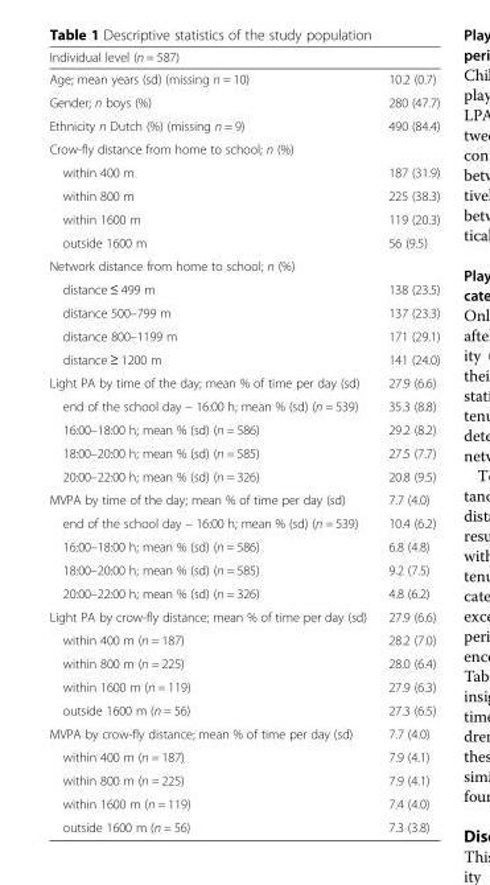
<table><thead><tr><td>Individual level (n = 587)</td><td></td></tr></thead><tbody><tr><td>Age; mean years (sd) (missing n = 10)</td><td>10.2 (0.7)</td></tr><tr><td>Gender; n boys (%)</td><td>280 (47.7)</td></tr><tr><td>Ethnicity n Dutch (%) (missing n = 9)</td><td>490 (84.4)</td></tr><tr><td colspan="2">Crow-fly distance from home to school; n (%)</td></tr><tr><td>within 400 m</td><td>187 (31.9)</td></tr><tr><td>within 800 m</td><td>225 (38.3)</td></tr><tr><td>within 1600 m</td><td>119 (20.3)</td></tr><tr><td>outside 1600 m</td><td>56 (9.5)</td></tr><tr><td colspan="2">Network distance from home to school; n (%)</td></tr><tr><td>distance ≤ 499 m</td><td>138 (23.5)</td></tr><tr><td>distance 500–799 m</td><td>137 (23.3)</td></tr><tr><td>distance 800–1199 m</td><td>171 (29.1)</td></tr><tr><td>distance ≥ 1200 m</td><td>141 (24.0)</td></tr><tr><td>Light PA by time of the day; mean % of time per day (sd)</td><td>27.9 (6.6)</td></tr><tr><td>end of the school day – 16:00 h; mean % (sd) (n = 539)</td><td>35.3 (8.8)</td></tr><tr><td>16:00–18:00 h; mean % (sd) (n = 586)</td><td>29.2 (8.2)</td></tr><tr><td>18:00–20:00 h; mean % (sd) (n = 585)</td><td>27.5 (7.7)</td></tr><tr><td>20:00–22:00 h; mean % (sd) (n = 326)</td><td>20.8 (9.5)</td></tr><tr><td>MVPA by time of the day; mean % of time per day (sd)</td><td>7.7 (4.0)</td></tr><tr><td>end of the school day – 16:00 h; mean % (sd) (n = 539)</td><td>10.4 (6.2)</td></tr><tr><td>16:00–18:00 h; mean % (sd) (n = 586)</td><td>6.8 (4.8)</td></tr><tr><td>18:00–20:00 h; mean % (sd) (n = 585)</td><td>9.2 (7.5)</td></tr><tr><td>20:00–22:00 h; mean % (sd) (n = 326)</td><td>4.8 (6.2)</td></tr><tr><td>Light PA by crow-fly distance; mean % of time per day (sd)</td><td>27.9 (6.6)</td></tr><tr><td>within 400 m (n = 187)</td><td>28.2 (7.0)</td></tr><tr><td>within 800 m (n = 225)</td><td>28.0 (6.4)</td></tr><tr><td>within 1600 m (n = 119)</td><td>27.9 (6.3)</td></tr><tr><td>outside 1600 m (n = 56)</td><td>27.3 (6.5)</td></tr><tr><td>MVPA by crow-fly distance; mean % of time per day (sd)</td><td>7.7 (4.0)</td></tr><tr><td>within 400 m (n = 187)</td><td>7.9 (4.1)</td></tr><tr><td>within 800 m (n = 225)</td><td>7.9 (4.1)</td></tr><tr><td>within 1600 m (n = 119)</td><td>7.4 (4.0)</td></tr><tr><td>outside 1600 m (n = 56)</td><td>7.3 (3.8)</td></tr></tbody></table>